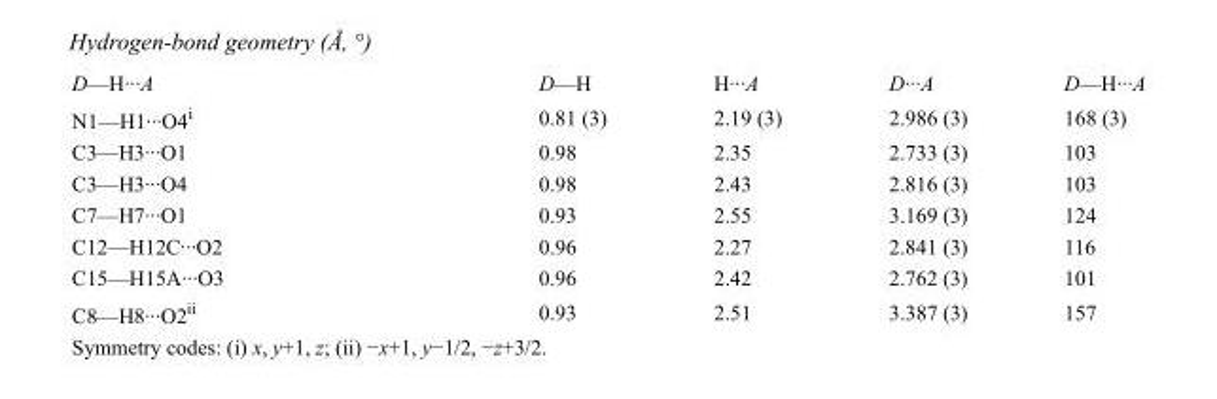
<table><tbody><tr><td>D—H···A</td><td>D—H</td><td>H···A</td><td>D···A</td><td>D—H···A</td></tr><tr><td>N1—H1···O4<sup>i</sup></td><td>0.81 (3)</td><td>2.19 (3)</td><td>2.986 (3)</td><td>168 (3)</td></tr><tr><td>C3—H3···O1</td><td>0.98</td><td>2.35</td><td>2.733 (3)</td><td>103</td></tr><tr><td>C3—H3···O4</td><td>0.98</td><td>2.43</td><td>2.816 (3)</td><td>103</td></tr><tr><td>C7—H7···O1</td><td>0.93</td><td>2.55</td><td>3.169 (3)</td><td>124</td></tr><tr><td>C12—H12C···O2</td><td>0.96</td><td>2.27</td><td>2.841 (3)</td><td>116</td></tr><tr><td>C15—H15A···O3</td><td>0.96</td><td>2.42</td><td>2.762 (3)</td><td>101</td></tr><tr><td>C8—H8···O2<sup>ii</sup></td><td>0.93</td><td>2.51</td><td>3.387 (3)</td><td>157</td></tr></tbody></table>